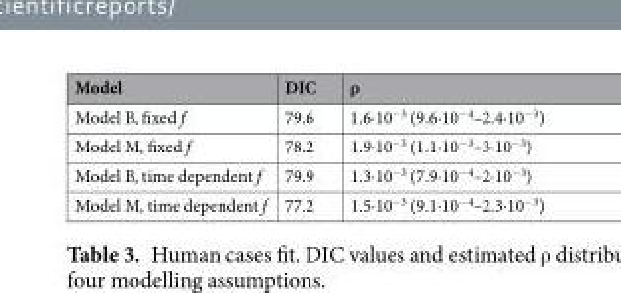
<table><thead><tr><td>Model</td><td>DIC</td><td>ρ</td></tr></thead><tbody><tr><td>Model B, fixed f</td><td>79.6</td><td>1.6∙10<sup>−3</sup> (9.6∙10<sup>−4</sup>–2.4∙10<sup>−3</sup>)</td></tr><tr><td>Model M, fixed f</td><td>78.2</td><td>1.9∙10<sup>−3</sup> (1.1∙10<sup>−3</sup>–3∙10<sup>−3</sup>)</td></tr><tr><td>Model B, time dependent f</td><td>79.9</td><td>1.3∙10<sup>−3</sup> (7.9∙10<sup>−4</sup>–2∙10<sup>−3</sup>)</td></tr><tr><td>Model M, time dependent f</td><td>77.2</td><td>1.5∙10<sup>−3</sup> (9.1∙10<sup>−4</sup>–2.3∙10<sup>−3</sup>)</td></tr></tbody></table>